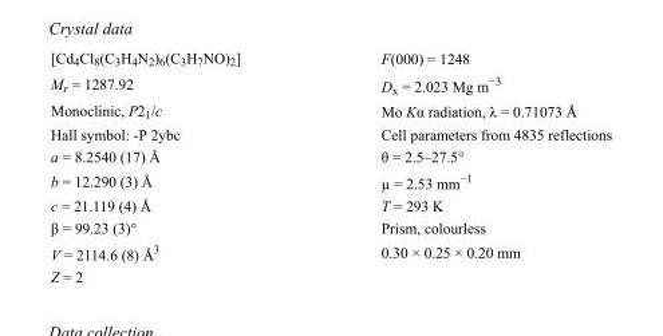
<table><tbody><tr><td>[Cd<sub>4</sub>Cl<sub>8</sub>(C<sub>3</sub>H<sub>4</sub>N<sub>2</sub>)<sub>6</sub>(C<sub>3</sub>H<sub>7</sub>NO)<sub>2</sub>]</td><td>F(000) = 1248</td></tr><tr><td>M<sub>r</sub> = 1287.92</td><td>D<sub>x</sub> = 2.023 Mg m<sup>−3</sup></td></tr><tr><td>Monoclinic, P2<sub>1</sub>/c</td><td>Mo Kα radiation, λ = 0.71073 Å</td></tr><tr><td>Hall symbol: -P 2ybc</td><td>Cell parameters from 4835 reflections</td></tr><tr><td>a = 8.2540 (17) Å</td><td>θ = 2.5–27.5°</td></tr><tr><td>b = 12.290 (3) Å</td><td>µ = 2.53 mm<sup>−1</sup></td></tr><tr><td>c = 21.119 (4) Å</td><td>T = 293 K</td></tr><tr><td>β = 99.23 (3)°</td><td>Prism, colourless</td></tr><tr><td>V = 2114.6 (8) Å<sup>3</sup></td><td>0.30 × 0.25 × 0.20 mm</td></tr><tr><td>Z = 2</td><td></td></tr></tbody></table>